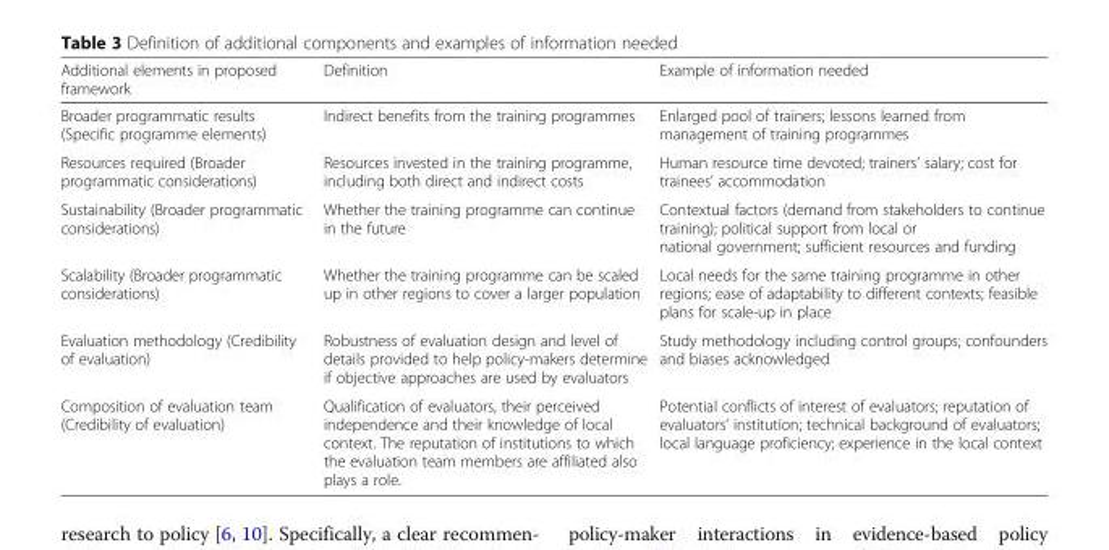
<table><thead><tr><td>Additional elements in proposed framework</td><td>Definition</td><td>Example of information needed</td></tr></thead><tbody><tr><td>Broader programmatic results (Specific programme elements)</td><td>Indirect benefits from the training programmes</td><td>Enlarged pool of trainers; lessons learned from management of training programmes</td></tr><tr><td>Resources required (Broader programmatic considerations)</td><td>Resources invested in the training programme, including both direct and indirect costs</td><td>Human resource time devoted; trainers’ salary; cost for trainees’ accommodation</td></tr><tr><td>Sustainability (Broader programmatic considerations)</td><td>Whether the training programme can continue in the future</td><td>Contextual factors (demand from stakeholders to continue training); political support from local or national government; sufficient resources and funding</td></tr><tr><td>Scalability (Broader programmatic considerations)</td><td>Whether the training programme can be scaled up in other regions to cover a larger population</td><td>Local needs for the same training programme in other regions; ease of adaptability to different contexts; feasible plans for scale-up in place</td></tr><tr><td>Evaluation methodology (Credibility of evaluation)</td><td>Robustness of evaluation design and level of details provided to help policy-makers determine if objective approaches are used by evaluators</td><td>Study methodology including control groups; confounders and biases acknowledged</td></tr><tr><td>Composition of evaluation team (Credibility of evaluation)</td><td>Qualification of evaluators, their perceived independence and their knowledge of local context. The reputation of institutions to which the evaluation team members are affiliated also plays a role.</td><td>Potential conflicts of interest of evaluators; reputation of evaluators’ institution; technical background of evaluators; local language proficiency; experience in the local context</td></tr></tbody></table>